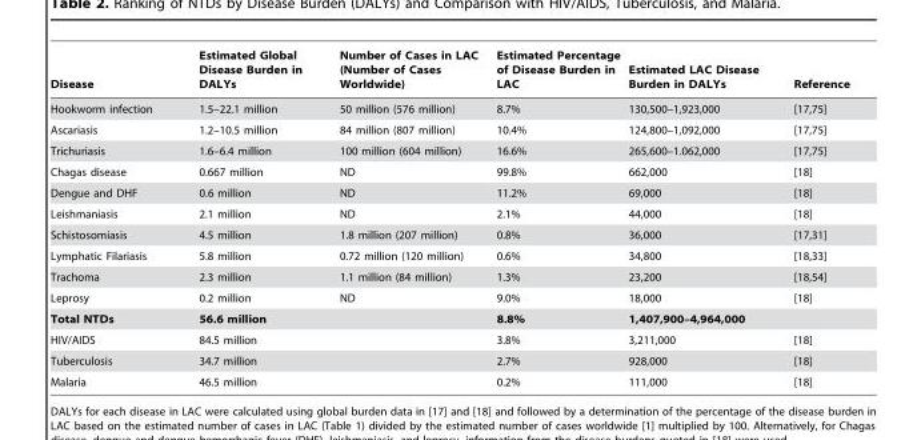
<table><thead><tr><td>Disease</td><td>Estimated Global Disease Burden in DALYs</td><td>Number of Cases in LAC (Number of Cases Worldwide)</td><td>Estimated Percentage of Disease Burden in LAC</td><td>Estimated LAC Disease Burden in DALYs</td><td>Reference</td></tr></thead><tbody><tr><td>Hookworm infection</td><td>1.5–22.1 million</td><td>50 million (576 million)</td><td>8.7%</td><td>130,500–1,923,000</td><td>[17,75]</td></tr><tr><td>Ascariasis</td><td>1.2–10.5 million</td><td>84 million (807 million)</td><td>10.4%</td><td>124,800–1,092,000</td><td>[17,75]</td></tr><tr><td>Trichuriasis</td><td>1.6–6.4 million</td><td>100 million (604 million)</td><td>16.6%</td><td>265,600–1.062,000</td><td>[17,75]</td></tr><tr><td>Chagas disease</td><td>0.667 million</td><td>ND</td><td>99.8%</td><td>662,000</td><td>[18]</td></tr><tr><td>Dengue and DHF</td><td>0.6 million</td><td>ND</td><td>11.2%</td><td>69,000</td><td>[18]</td></tr><tr><td>Leishmaniasis</td><td>2.1 million</td><td>ND</td><td>2.1%</td><td>44,000</td><td>[18]</td></tr><tr><td>Schistosomiasis</td><td>4.5 million</td><td>1.8 million (207 million)</td><td>0.8%</td><td>36,000</td><td>[17,31]</td></tr><tr><td>Lymphatic Filariasis</td><td>5.8 million</td><td>0.72 million (120 million)</td><td>0.6%</td><td>34,800</td><td>[18,33]</td></tr><tr><td>Trachoma</td><td>2.3 million</td><td>1.1 million (84 million)</td><td>1.3%</td><td>23,200</td><td>[18,54]</td></tr><tr><td>Leprosy</td><td>0.2 million</td><td>ND</td><td>9.0%</td><td>18,000</td><td>[18]</td></tr><tr><td>Total NTDs</td><td>56.6 million</td><td></td><td>8.8%</td><td>1,407,900–4,964,000</td><td></td></tr><tr><td>HIV/AIDS</td><td>84.5 million</td><td></td><td>3.8%</td><td>3,211,000</td><td>[18]</td></tr><tr><td>Tuberculosis</td><td>34.7 million</td><td></td><td>2.7%</td><td>928,000</td><td>[18]</td></tr><tr><td>Malaria</td><td>46.5 million</td><td></td><td>0.2%</td><td>111,000</td><td>[18]</td></tr></tbody></table>